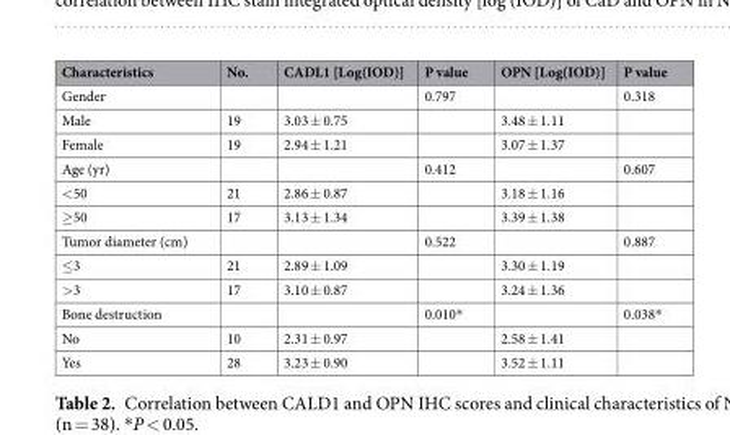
<table><thead><tr><td>Characteristics</td><td>No.</td><td>CADL1 [Log(IOD)]</td><td>P value</td><td>OPN [Log(IOD)]</td><td>P value</td></tr></thead><tbody><tr><td>Gender</td><td></td><td></td><td>0.797</td><td></td><td>0.318</td></tr><tr><td>Male</td><td>19</td><td>3.03 ± 0.75</td><td></td><td>3.48 ± 1.11</td><td></td></tr><tr><td>Female</td><td>19</td><td>2.94 ± 1.21</td><td></td><td>3.07 ± 1.37</td><td></td></tr><tr><td>Age (yr)</td><td></td><td></td><td>0.412</td><td></td><td>0.607</td></tr><tr><td>&lt;50</td><td>21</td><td>2.86 ± 0.87</td><td></td><td>3.18 ± 1.16</td><td></td></tr><tr><td>≥50</td><td>17</td><td>3.13 ± 1.34</td><td></td><td>3.39 ± 1.38</td><td></td></tr><tr><td>Tumor diameter (cm)</td><td></td><td></td><td>0.522</td><td></td><td>0.887</td></tr><tr><td>≤3</td><td>21</td><td>2.89 ± 1.09</td><td></td><td>3.30 ± 1.19</td><td></td></tr><tr><td>&gt;3</td><td>17</td><td>3.10 ± 0.87</td><td></td><td>3.24 ± 1.36</td><td></td></tr><tr><td>Bone destruction</td><td></td><td></td><td>0.010*</td><td></td><td>0.038*</td></tr><tr><td>No</td><td>10</td><td>2.31 ± 0.97</td><td></td><td>2.58 ± 1.41</td><td></td></tr><tr><td>Yes</td><td>28</td><td>3.23 ± 0.90</td><td></td><td>3.52 ± 1.11</td><td></td></tr></tbody></table>